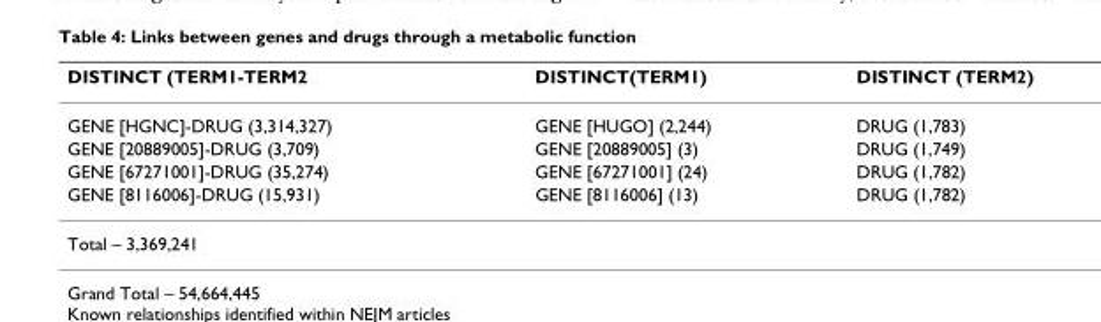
<table><thead><tr><td>DISTINCT (TERM1-TERM2</td><td>DISTINCT(TERM1)</td><td>DISTINCT (TERM2)</td></tr></thead><tbody><tr><td>GENE [HGNC]-DRUG (3,314,327)</td><td>GENE [HUGO] (2,244)</td><td>DRUG (1,783)</td></tr><tr><td>GENE [20889005]-DRUG (3,709)</td><td>GENE [20889005] (3)</td><td>DRUG (1,749)</td></tr><tr><td>GENE [67271001]-DRUG (35,274)</td><td>GENE [67271001] (24)</td><td>DRUG (1,782)</td></tr><tr><td>GENE [8116006]-DRUG (15,931)</td><td>GENE [8116006] (13)</td><td>DRUG (1,782)</td></tr><tr><td>Total – 3,369,241</td><td></td><td></td></tr></tbody></table>